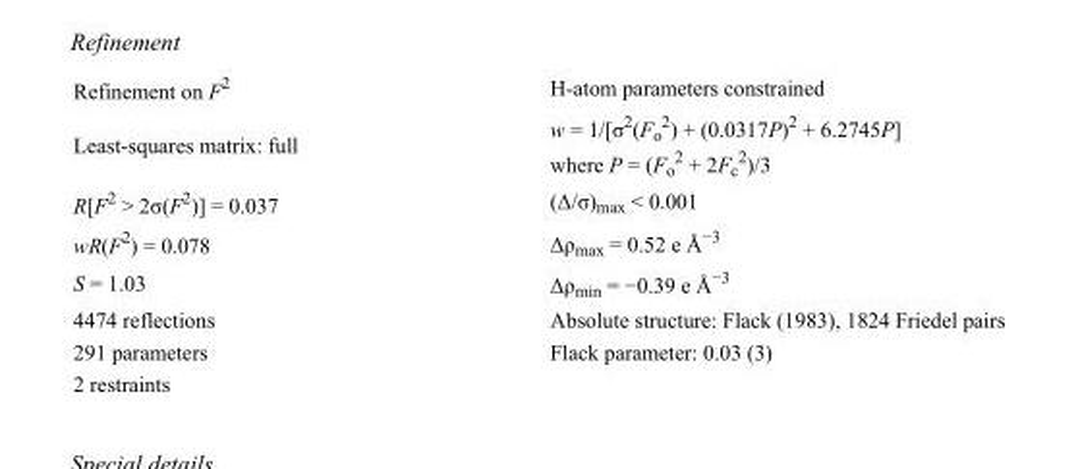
<table><tbody><tr><td>Refinement on F<sup>2</sup></td><td>H-atom parameters constrained</td></tr><tr><td>Least-squares matrix: full</td><td>w = 1/[σ<sup>2</sup>(F<sub>o</sub> <sup>2</sup>) + (0.0317P)<sup>2</sup> + 6.2745P] where P = (F<sub>o</sub> <sup>2</sup> + 2F<sub>c</sub> <sup>2</sup>)/3</td></tr><tr><td>R[F<sup>2</sup> &gt; 2σ(F<sup>2</sup>)] = 0.037</td><td>(Δ/σ)<sub>max</sub> &lt; 0.001</td></tr><tr><td>wR(F<sup>2</sup>) = 0.078</td><td>Δρ<sub>max</sub> = 0.52 e Å<sup>−3</sup></td></tr><tr><td>S = 1.03</td><td>Δρ<sub>min</sub> = −0.39 e Å<sup>−3</sup></td></tr><tr><td>4474 reflections</td><td>Absolute structure: Flack (1983), 1824 Friedel pairs</td></tr><tr><td>291 parameters</td><td>Flack parameter: 0.03 (3)</td></tr><tr><td>2 restraints</td><td></td></tr></tbody></table>